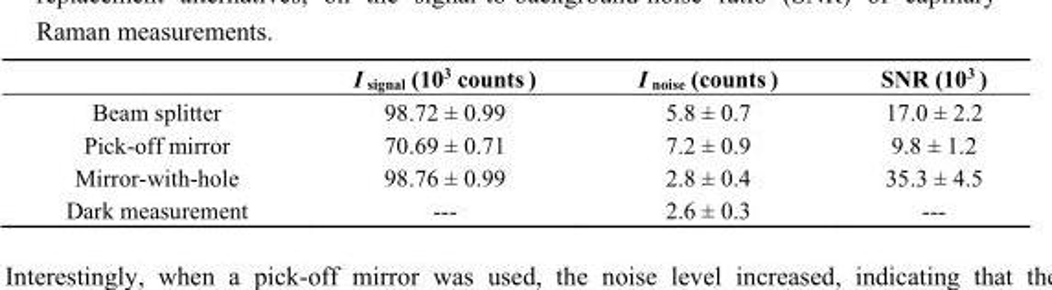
<table><thead><tr><td></td><td>I <sub>signal</sub> (10<sup>3</sup> counts )</td><td>I <sub>noise</sub> (counts )</td><td>SNR (10<sup>3</sup> )</td></tr></thead><tbody><tr><td>Beam splitter</td><td>98.72 ± 0.99</td><td>5.8 ± 0.7</td><td>17.0 ± 2.2</td></tr><tr><td>Pick-off mirror</td><td>70.69 ± 0.71</td><td>7.2 ± 0.9</td><td>9.8 ± 1.2</td></tr><tr><td>Mirror-with-hole</td><td>98.76 ± 0.99</td><td>2.8 ± 0.4</td><td>35.3 ± 4.5</td></tr><tr><td>Dark measurement</td><td>---</td><td>2.6 ± 0.3</td><td>---</td></tr></tbody></table>